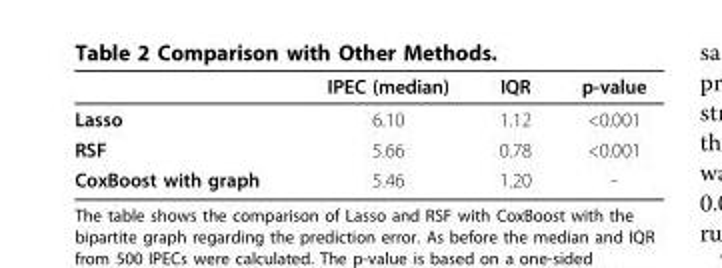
<table><thead><tr><td></td><td>IPEC (median)</td><td>IQR</td><td>p-value</td></tr></thead><tbody><tr><td>Lasso</td><td>6.10</td><td>1.12</td><td>&lt;0.001</td></tr><tr><td>RSF</td><td>5.66</td><td>0.78</td><td>&lt;0.001</td></tr><tr><td>CoxBoost with graph</td><td>5.46</td><td>1.20</td><td>-</td></tr></tbody></table>